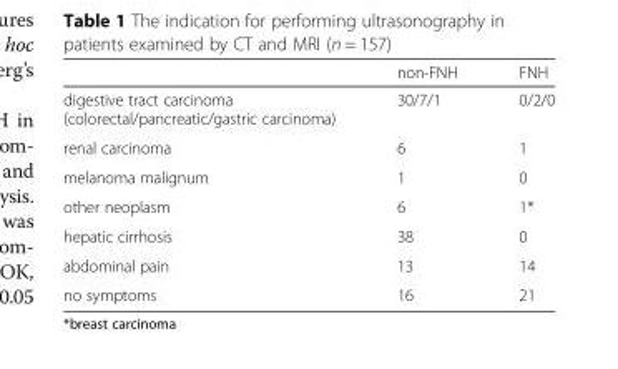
<table><thead><tr><td></td><td>non-FNH</td><td>FNH</td></tr></thead><tbody><tr><td>digestive tract carcinoma (colorectal/pancreatic/gastric carcinoma)</td><td>30/7/1</td><td>0/2/0</td></tr><tr><td>renal carcinoma</td><td>6</td><td>1</td></tr><tr><td>melanoma malignum</td><td>1</td><td>0</td></tr><tr><td>other neoplasm</td><td>6</td><td>1*</td></tr><tr><td>hepatic cirrhosis</td><td>38</td><td>0</td></tr><tr><td>abdominal pain</td><td>13</td><td>14</td></tr><tr><td>no symptoms</td><td>16</td><td>21</td></tr></tbody></table>